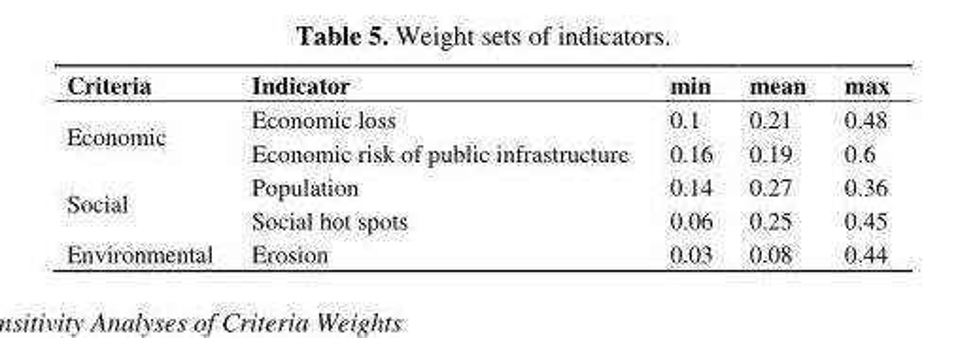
<table><thead><tr><td>Criteria</td><td>Indicator</td><td>min</td><td>mean</td><td>max</td></tr></thead><tbody><tr><td rowspan="2">Economic</td><td>Economic loss</td><td>0.1</td><td>0.21</td><td>0.48</td></tr><tr><td>Economic risk of public infrastructure</td><td>0.16</td><td>0.19</td><td>0.6</td></tr><tr><td rowspan="2">Social</td><td>Population</td><td>0.14</td><td>0.27</td><td>0.36</td></tr><tr><td>Social hot spots</td><td>0.06</td><td>0.25</td><td>0.45</td></tr><tr><td>Environmental</td><td>Erosion</td><td>0.03</td><td>0.08</td><td>0.44</td></tr></tbody></table>